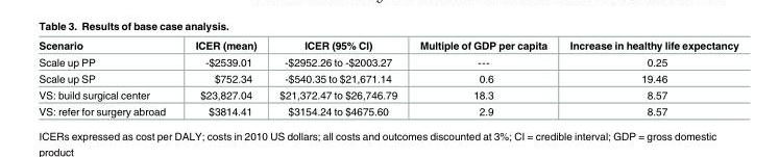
<table><thead><tr><td>Scenario</td><td>ICER (mean)</td><td>ICER (95% CI)</td><td>Multiple of GDP per capita</td><td>Increase in healthy life expectancy</td></tr></thead><tbody><tr><td>Scale up PP</td><td>-$2539.01</td><td>-$2952.26 to -$2003.27</td><td>---</td><td>0.25</td></tr><tr><td>Scale up SP</td><td>$752.34</td><td>-$540.35 to $21,671.14</td><td>0.6</td><td>19.46</td></tr><tr><td>VS: build surgical center</td><td>$23,827.04</td><td>$21,372.47 to $26,746.79</td><td>18.3</td><td>8.57</td></tr><tr><td>VS: refer for surgery abroad</td><td>$3814.41</td><td>$3154.24 to $4675.60</td><td>2.9</td><td>8.57</td></tr></tbody></table>